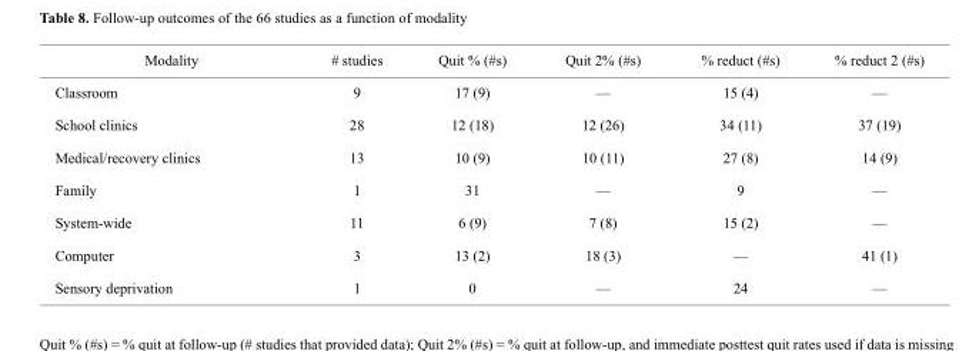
<table><thead><tr><td>Modality</td><td># studies</td><td>Quit % (#s)</td><td>Quit 2% (#s)</td><td>% reduct (#s)</td><td>% reduct 2 (#s)</td></tr></thead><tbody><tr><td>Classroom</td><td>9</td><td>17 (9)</td><td>—</td><td>15 (4)</td><td>—</td></tr><tr><td>School clinics</td><td>28</td><td>12 (18)</td><td>12 (26)</td><td>34 (11)</td><td>37 (19)</td></tr><tr><td>Medical/recovery clinics</td><td>13</td><td>10 (9)</td><td>10 (11)</td><td>27 (8)</td><td>14 (9)</td></tr><tr><td>Family</td><td>1</td><td>31</td><td>—</td><td>9</td><td>—</td></tr><tr><td>System-wide</td><td>11</td><td>6 (9)</td><td>7 (8)</td><td>15 (2)</td><td>—</td></tr><tr><td>Computer</td><td>3</td><td>13 (2)</td><td>18 (3)</td><td>—</td><td>41 (1)</td></tr><tr><td>Sensory deprivation</td><td>1</td><td>0</td><td>—</td><td>24</td><td>—</td></tr></tbody></table>